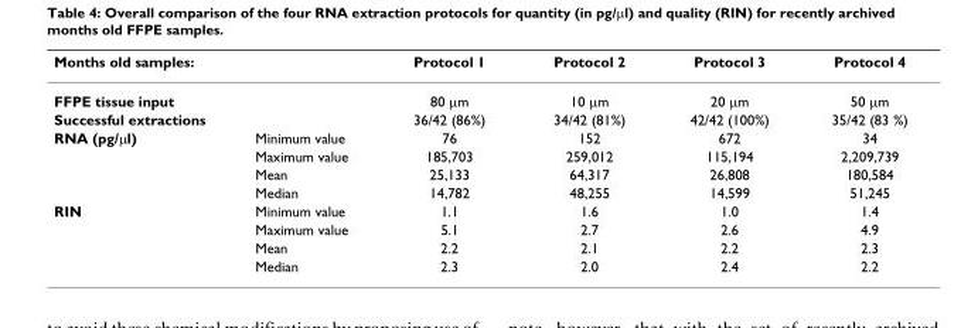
<table><thead><tr><td>Months old samples:</td><td></td><td>Protocol 1</td><td>Protocol 2</td><td>Protocol 3</td><td>Protocol 4</td></tr></thead><tbody><tr><td>FFPE tissue input</td><td></td><td>80 μm</td><td>10 μm</td><td>20 μm</td><td>50 μm</td></tr><tr><td>Successful extractions</td><td></td><td>36/42 (86%)</td><td>34/42 (81%)</td><td>42/42 (100%)</td><td>35/42 (83 %)</td></tr><tr><td rowspan="4">RNA (pg/μl)</td><td>Minimum value</td><td>76</td><td>152</td><td>672</td><td>34</td></tr><tr><td>Maximum value</td><td>185,703</td><td>259,012</td><td>115,194</td><td>2,209,739</td></tr><tr><td>Mean</td><td>25,133</td><td>64,317</td><td>26,808</td><td>180,584</td></tr><tr><td>Median</td><td>14,782</td><td>48,255</td><td>14,599</td><td>51,245</td></tr><tr><td rowspan="4">RIN</td><td>Minimum value</td><td>1.1</td><td>1.6</td><td>1.0</td><td>1.4</td></tr><tr><td>Maximum value</td><td>5.1</td><td>2.7</td><td>2.6</td><td>4.9</td></tr><tr><td>Mean</td><td>2.2</td><td>2.1</td><td>2.2</td><td>2.3</td></tr><tr><td>Median</td><td>2.3</td><td>2.0</td><td>2.4</td><td>2.2</td></tr></tbody></table>